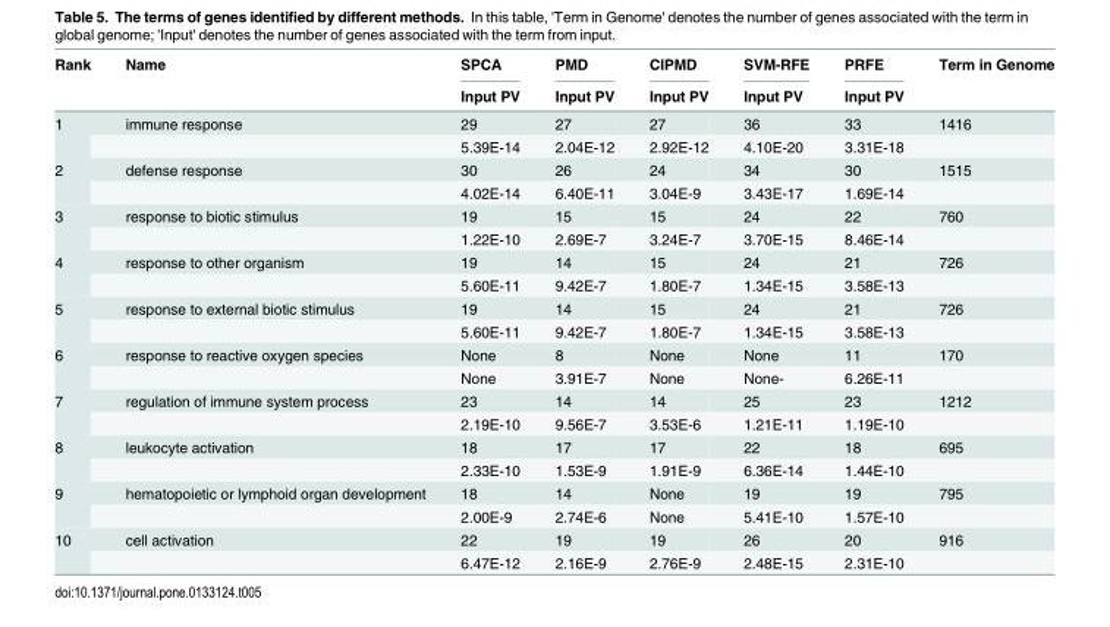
<table><thead><tr><td rowspan="2">Rank</td><td rowspan="2">Name</td><td rowspan="2">SPCA Input PV</td><td rowspan="2">PMD Input PV</td><td rowspan="2">CIPMD Input PV</td><td rowspan="2">SVM-RFE Input PV</td><td rowspan="2">PRFE Input PV</td><td rowspan="2">Term in Genome</td></tr><tr></tr></thead><tbody><tr><td rowspan="2">1</td><td>immune response</td><td>29</td><td>27</td><td>27</td><td>36</td><td>33</td><td>1416</td></tr><tr><td></td><td>5.39E-14</td><td>2.04E-12</td><td>2.92E-12</td><td>4.10E-20</td><td>3.31E-18</td><td></td></tr><tr><td rowspan="2">2</td><td>defense response</td><td>30</td><td>26</td><td>24</td><td>34</td><td>30</td><td>1515</td></tr><tr><td></td><td>4.02E-14</td><td>6.40E-11</td><td>3.04E-9</td><td>3.43E-17</td><td>1.69E-14</td><td></td></tr><tr><td rowspan="2">3</td><td>response to biotic stimulus</td><td>19</td><td>15</td><td>15</td><td>24</td><td>22</td><td>760</td></tr><tr><td></td><td>1.22E-10</td><td>2.69E-7</td><td>3.24E-7</td><td>3.70E-15</td><td>8.46E-14</td><td></td></tr><tr><td rowspan="2">4</td><td>response to other organism</td><td>19</td><td>14</td><td>15</td><td>24</td><td>21</td><td>726</td></tr><tr><td></td><td>5.60E-11</td><td>9.42E-7</td><td>1.80E-7</td><td>1.34E-15</td><td>3.58E-13</td><td></td></tr><tr><td rowspan="2">5</td><td>response to external biotic stimulus</td><td>19</td><td>14</td><td>15</td><td>24</td><td>21</td><td>726</td></tr><tr><td></td><td>5.60E-11</td><td>9.42E-7</td><td>1.80E-7</td><td>1.34E-15</td><td>3.58E-13</td><td></td></tr><tr><td rowspan="2">6</td><td>response to reactive oxygen species</td><td>None</td><td>8</td><td>None</td><td>None</td><td>11</td><td>170</td></tr><tr><td></td><td>None</td><td>3.91E-7</td><td>None</td><td>None-</td><td>6.26E-11</td><td></td></tr><tr><td rowspan="2">7</td><td>regulation of immune system process</td><td>23</td><td>14</td><td>14</td><td>25</td><td>23</td><td>1212</td></tr><tr><td></td><td>2.19E-10</td><td>9.56E-7</td><td>3.53E-6</td><td>1.21E-11</td><td>1.19E-10</td><td></td></tr><tr><td rowspan="2">8</td><td>leukocyte activation</td><td>18</td><td>17</td><td>17</td><td>22</td><td>18</td><td>695</td></tr><tr><td></td><td>2.33E-10</td><td>1.53E-9</td><td>1.91E-9</td><td>6.36E-14</td><td>1.44E-10</td><td></td></tr><tr><td rowspan="2">9</td><td>hematopoietic or lymphoid organ development</td><td>18</td><td>14</td><td>None</td><td>19</td><td>19</td><td>795</td></tr><tr><td></td><td>2.00E-9</td><td>2.74E-6</td><td>None</td><td>5.41E-10</td><td>1.57E-10</td><td></td></tr><tr><td rowspan="2">10</td><td>cell activation</td><td>22</td><td>19</td><td>19</td><td>26</td><td>20</td><td>916</td></tr><tr><td></td><td>6.47E-12</td><td>2.16E-9</td><td>2.76E-9</td><td>2.48E-15</td><td>2.31E-10</td><td></td></tr></tbody></table>